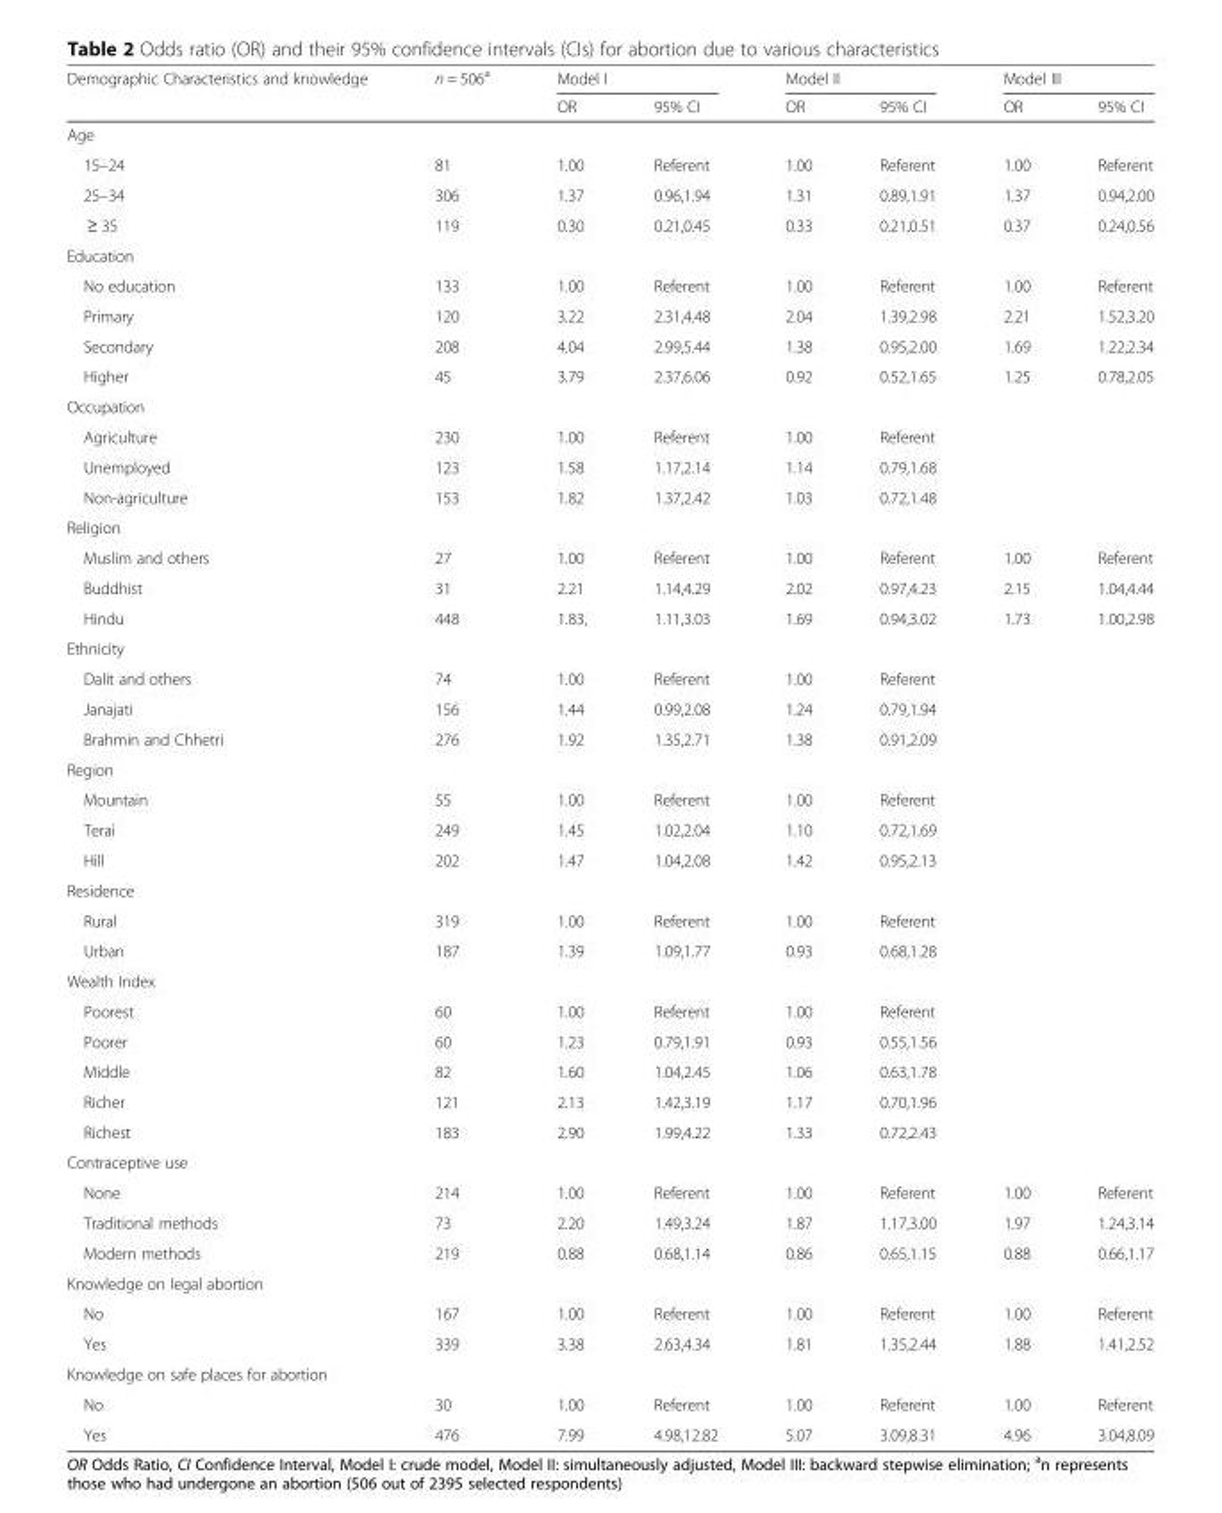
<table><thead><tr><td rowspan="2">Demographic Characteristics and knowledge</td><td rowspan="2">n = 506<sup>a</sup></td><td colspan="2">Model I</td><td colspan="2">Model II</td><td colspan="2">Model III</td></tr><tr><td>OR</td><td>95% CI</td><td>OR</td><td>95% CI</td><td>OR</td><td>95% CI</td></tr></thead><tbody><tr><td colspan="8">Age</td></tr><tr><td>15–24</td><td>81</td><td>1.00</td><td>Referent</td><td>1.00</td><td>Referent</td><td>1.00</td><td>Referent</td></tr><tr><td>25–34</td><td>306</td><td>1.37</td><td>0.96,1.94</td><td>1.31</td><td>0.89,1.91</td><td>1.37</td><td>0.94,2.00</td></tr><tr><td>≥ 35</td><td>119</td><td>0.30</td><td>0.21,0.45</td><td>0.33</td><td>0.21,0.51</td><td>0.37</td><td>0.24,0.56</td></tr><tr><td colspan="8">Education</td></tr><tr><td>No education</td><td>133</td><td>1.00</td><td>Referent</td><td>1.00</td><td>Referent</td><td>1.00</td><td>Referent</td></tr><tr><td>Primary</td><td>120</td><td>3.22</td><td>2.31,4.48</td><td>2.04</td><td>1.39,2.98</td><td>2.21</td><td>1.52,3.20</td></tr><tr><td>Secondary</td><td>208</td><td>4.04</td><td>2.99,5.44</td><td>1.38</td><td>0.95,2.00</td><td>1.69</td><td>1.22,2.34</td></tr><tr><td>Higher</td><td>45</td><td>3.79</td><td>2.37,6.06</td><td>0.92</td><td>0.52,1.65</td><td>1.25</td><td>0.78,2.05</td></tr><tr><td colspan="8">Occupation</td></tr><tr><td>Agriculture</td><td>230</td><td>1.00</td><td>Referent</td><td>1.00</td><td>Referent</td><td></td><td></td></tr><tr><td>Unemployed</td><td>123</td><td>1.58</td><td>1.17,2.14</td><td>1.14</td><td>0.79,1.68</td><td></td><td></td></tr><tr><td>Non-agriculture</td><td>153</td><td>1.82</td><td>1.37,2.42</td><td>1.03</td><td>0.72,1.48</td><td></td><td></td></tr><tr><td colspan="8">Religion</td></tr><tr><td>Muslim and others</td><td>27</td><td>1.00</td><td>Referent</td><td>1.00</td><td>Referent</td><td>1.00</td><td>Referent</td></tr><tr><td>Buddhist</td><td>31</td><td>2.21</td><td>1.14,4.29</td><td>2.02</td><td>0.97,4.23</td><td>2.15</td><td>1.04,4.44</td></tr><tr><td>Hindu</td><td>448</td><td>1.83,</td><td>1.11,3.03</td><td>1.69</td><td>0.94,3.02</td><td>1.73</td><td>1.00,2.98</td></tr><tr><td colspan="8">Ethnicity</td></tr><tr><td>Dalit and others</td><td>74</td><td>1.00</td><td>Referent</td><td>1.00</td><td>Referent</td><td></td><td></td></tr><tr><td>Janajati</td><td>156</td><td>1.44</td><td>0.99,2.08</td><td>1.24</td><td>0.79,1.94</td><td></td><td></td></tr><tr><td>Brahmin and Chhetri</td><td>276</td><td>1.92</td><td>1.35,2.71</td><td>1.38</td><td>0.91,2.09</td><td></td><td></td></tr><tr><td colspan="8">Region</td></tr><tr><td>Mountain</td><td>55</td><td>1.00</td><td>Referent</td><td>1.00</td><td>Referent</td><td></td><td></td></tr><tr><td>Terai</td><td>249</td><td>1.45</td><td>1.02,2.04</td><td>1.10</td><td>0.72,1.69</td><td></td><td></td></tr><tr><td>Hill</td><td>202</td><td>1.47</td><td>1.04,2.08</td><td>1.42</td><td>0.95,2.13</td><td></td><td></td></tr><tr><td colspan="8">Residence</td></tr><tr><td>Rural</td><td>319</td><td>1.00</td><td>Referent</td><td>1.00</td><td>Referent</td><td></td><td></td></tr><tr><td>Urban</td><td>187</td><td>1.39</td><td>1.09,1.77</td><td>0.93</td><td>0.68,1.28</td><td></td><td></td></tr><tr><td colspan="8">Wealth Index</td></tr><tr><td>Poorest</td><td>60</td><td>1.00</td><td>Referent</td><td>1.00</td><td>Referent</td><td></td><td></td></tr><tr><td>Poorer</td><td>60</td><td>1.23</td><td>0.79,1.91</td><td>0.93</td><td>0.55,1.56</td><td></td><td></td></tr><tr><td>Middle</td><td>82</td><td>1.60</td><td>1.04,2.45</td><td>1.06</td><td>0.63,1.78</td><td></td><td></td></tr><tr><td>Richer</td><td>121</td><td>2.13</td><td>1.42,3.19</td><td>1.17</td><td>0.70,1.96</td><td></td><td></td></tr><tr><td>Richest</td><td>183</td><td>2.90</td><td>1.99,4.22</td><td>1.33</td><td>0.72,2.43</td><td></td><td></td></tr><tr><td colspan="8">Contraceptive use</td></tr><tr><td>None</td><td>214</td><td>1.00</td><td>Referent</td><td>1.00</td><td>Referent</td><td>1.00</td><td>Referent</td></tr><tr><td>Traditional methods</td><td>73</td><td>2.20</td><td>1.49,3.24</td><td>1.87</td><td>1.17,3.00</td><td>1.97</td><td>1.24,3.14</td></tr><tr><td>Modern methods</td><td>219</td><td>0.88</td><td>0.68,1.14</td><td>0.86</td><td>0.65,1.15</td><td>0.88</td><td>0.66,1.17</td></tr><tr><td colspan="8">Knowledge on legal abortion</td></tr><tr><td>No</td><td>167</td><td>1.00</td><td>Referent</td><td>1.00</td><td>Referent</td><td>1.00</td><td>Referent</td></tr><tr><td>Yes</td><td>339</td><td>3.38</td><td>2.63,4.34</td><td>1.81</td><td>1.35,2.44</td><td>1.88</td><td>1.41,2.52</td></tr><tr><td colspan="8">Knowledge on safe places for abortion</td></tr><tr><td>No</td><td>30</td><td>1.00</td><td>Referent</td><td>1.00</td><td>Referent</td><td>1.00</td><td>Referent</td></tr><tr><td>Yes</td><td>476</td><td>7.99</td><td>4.98,12.82</td><td>5.07</td><td>3.09,8.31</td><td>4.96</td><td>3.04,8.09</td></tr></tbody></table>